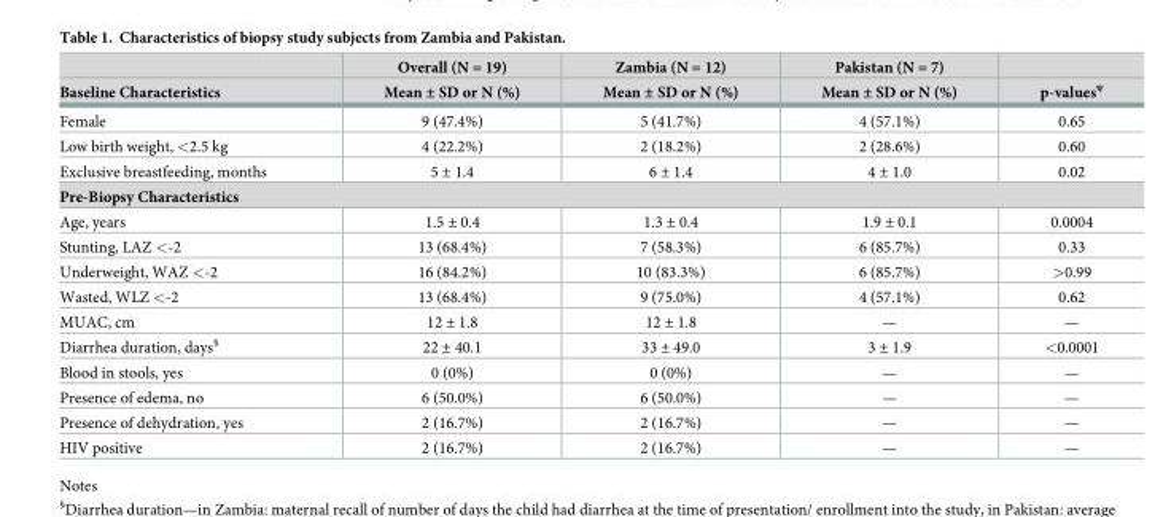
<table><thead><tr><td rowspan="2">Baseline Characteristics</td><td rowspan="2">Overall (N = 19) Mean ± SD or N (%)</td><td rowspan="2">Zambia (N = 12) Mean ± SD or N (%)</td><td rowspan="2">Pakistan (N = 7) Mean ± SD or N (%)</td><td rowspan="2">p-values<sup>ψ</sup></td></tr><tr></tr></thead><tbody><tr><td>Female</td><td>9 (47.4%)</td><td>5 (41.7%)</td><td>4 (57.1%)</td><td>0.65</td></tr><tr><td>Low birth weight, &lt;2.5 kg</td><td>4 (22.2%)</td><td>2 (18.2%)</td><td>2 (28.6%)</td><td>0.60</td></tr><tr><td>Exclusive breastfeeding, months</td><td>5 ± 1.4</td><td>6 ± 1.4</td><td>4 ± 1.0</td><td>0.02</td></tr><tr><td colspan="5">Pre-Biopsy Characteristics</td></tr><tr><td>Age, years</td><td>1.5 ± 0.4</td><td>1.3 ± 0.4</td><td>1.9 ± 0.1</td><td>0.0004</td></tr><tr><td>Stunting, LAZ &lt;-2</td><td>13 (68.4%)</td><td>7 (58.3%)</td><td>6 (85.7%)</td><td>0.33</td></tr><tr><td>Underweight, WAZ &lt;-2</td><td>16 (84.2%)</td><td>10 (83.3%)</td><td>6 (85.7%)</td><td>&gt;0.99</td></tr><tr><td>Wasted, WLZ &lt;-2</td><td>13 (68.4%)</td><td>9 (75.0%)</td><td>4 (57.1%)</td><td>0.62</td></tr><tr><td>MUAC, cm</td><td>12 ± 1.8</td><td>12 ± 1.8</td><td>—</td><td>—</td></tr><tr><td>Diarrhea duration, days<sup>§</sup></td><td>22 ± 40.1</td><td>33 ± 49.0</td><td>3 ± 1.9</td><td>&lt;0.0001</td></tr><tr><td>Blood in stools, yes</td><td>0 (0%)</td><td>0 (0%)</td><td>—</td><td>—</td></tr><tr><td>Presence of edema, no</td><td>6 (50.0%)</td><td>6 (50.0%)</td><td>—</td><td>—</td></tr><tr><td>Presence of dehydration, yes</td><td>2 (16.7%)</td><td>2 (16.7%)</td><td>—</td><td>—</td></tr><tr><td>HIV positive</td><td>2 (16.7%)</td><td>2 (16.7%)</td><td>—</td><td>—</td></tr></tbody></table>